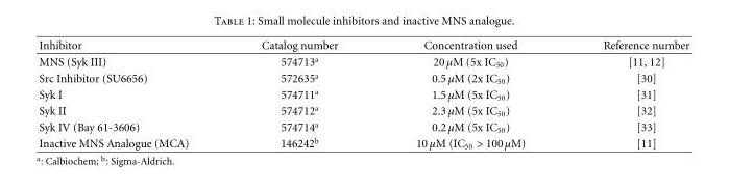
<table><thead><tr><td>Inhibitor</td><td>Catalog number</td><td>Concentration used</td><td>Reference number</td></tr></thead><tbody><tr><td>MNS (Syk III)</td><td>574713<sup>a</sup></td><td>20 μM (5x IC<sub>50</sub>)</td><td>[11, 12]</td></tr><tr><td>Src Inhibitor (SU6656)</td><td>572635<sup>a</sup></td><td>0.5 μM (2x IC<sub>50</sub>)</td><td>[30]</td></tr><tr><td>Syk I</td><td>574711<sup>a</sup></td><td>1.5 μM (5x IC<sub>50</sub>)</td><td>[31]</td></tr><tr><td>Syk II</td><td>574712<sup>a</sup></td><td>2.3 μM (5x IC<sub>50</sub>)</td><td>[32]</td></tr><tr><td>Syk IV (Bay 61-3606)</td><td>574714<sup>a</sup></td><td>0.2 μM (5x IC<sub>50</sub>)</td><td>[33]</td></tr><tr><td>Inactive MNS Analogue (MCA)</td><td>146242<sup>b</sup></td><td>10 μM (IC<sub>50</sub> &gt; 100μM)</td><td>[11]</td></tr></tbody></table>